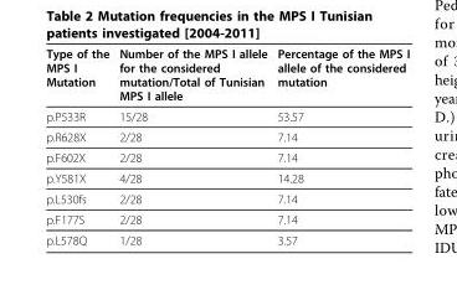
<table><thead><tr><td>Type of the MPS I Mutation</td><td>Number of the MPS I allele for the considered mutation/Total of Tunisian MPS I allele</td><td>Percentage of the MPS I allele of the considered mutation</td></tr></thead><tbody><tr><td>p.P533R</td><td>15/28</td><td>53.57</td></tr><tr><td>p.R628X</td><td>2/28</td><td>7.14</td></tr><tr><td>p.F602X</td><td>2/28</td><td>7.14</td></tr><tr><td>p.Y581X</td><td>4/28</td><td>14.28</td></tr><tr><td>p.L530fs</td><td>2/28</td><td>7.14</td></tr><tr><td>p.F177S</td><td>2/28</td><td>7.14</td></tr><tr><td>p.L578Q</td><td>1/28</td><td>3.57</td></tr></tbody></table>